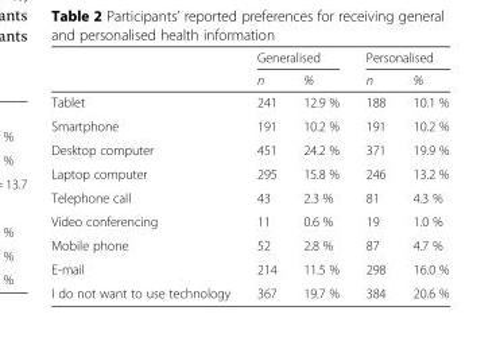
<table><thead><tr><td rowspan="2"></td><td colspan="2">Generalised</td><td colspan="2">Personalised</td></tr><tr><td>n</td><td>%</td><td>n</td><td>%</td></tr></thead><tbody><tr><td>Tablet</td><td>241</td><td>12.9 %</td><td>188</td><td>10.1 %</td></tr><tr><td>Smartphone</td><td>191</td><td>10.2 %</td><td>191</td><td>10.2 %</td></tr><tr><td>Desktop computer</td><td>451</td><td>24.2 %</td><td>371</td><td>19.9 %</td></tr><tr><td>Laptop computer</td><td>295</td><td>15.8 %</td><td>246</td><td>13.2 %</td></tr><tr><td>Telephone call</td><td>43</td><td>2.3 %</td><td>81</td><td>4.3 %</td></tr><tr><td>Video conferencing</td><td>11</td><td>0.6 %</td><td>19</td><td>1.0 %</td></tr><tr><td>Mobile phone</td><td>52</td><td>2.8 %</td><td>87</td><td>4.7 %</td></tr><tr><td>E-mail</td><td>214</td><td>11.5 %</td><td>298</td><td>16.0 %</td></tr><tr><td>I do not want to use technology</td><td>367</td><td>19.7 %</td><td>384</td><td>20.6 %</td></tr></tbody></table>